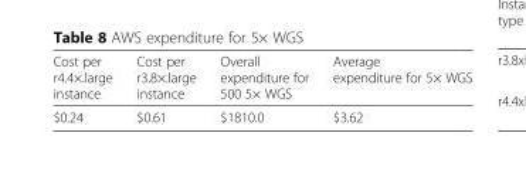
<table><thead><tr><td>Cost per r4.4×.large instance</td><td>Cost per r3.8×.large instance</td><td>Overall expenditure for 500 5× WGS</td><td>Average expenditure for 5× WGS</td></tr></thead><tbody><tr><td>$0.24</td><td>$0.61</td><td>$1810.0</td><td>$3.62</td></tr></tbody></table>